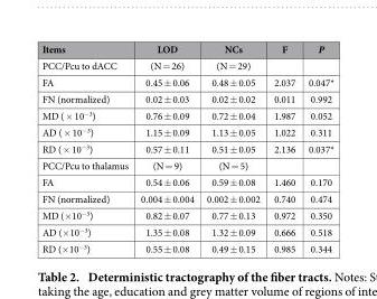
<table><thead><tr><td>Items</td><td>LOD</td><td>NCs</td><td>F</td><td>P</td></tr></thead><tbody><tr><td>PCC/Pcu to dACC</td><td>(N = 26)</td><td>(N = 29)</td><td></td><td></td></tr><tr><td>FA</td><td>0.45 ± 0.06</td><td>0.48 ± 0.05</td><td>2.037</td><td>0.047*</td></tr><tr><td>FN (normalized)</td><td>0.02 ± 0.03</td><td>0.02 ± 0.02</td><td>0.011</td><td>0.992</td></tr><tr><td>MD ( × 10<sup>−3</sup>)</td><td>0.76 ± 0.09</td><td>0.72 ± 0.04</td><td>1.987</td><td>0.052</td></tr><tr><td>AD ( × 10<sup>−3</sup>)</td><td>1.15 ± 0.09</td><td>1.13 ± 0.05</td><td>1.022</td><td>0.311</td></tr><tr><td>RD ( × 10<sup>−3</sup>)</td><td>0.57 ± 0.11</td><td>0.51 ± 0.05</td><td>2.136</td><td>0.037*</td></tr><tr><td>PCC/Pcu to thalamus</td><td>(N = 9)</td><td>(N = 5)</td><td></td><td></td></tr><tr><td>FA</td><td>0.54 ± 0.06</td><td>0.59 ± 0.08</td><td>1.460</td><td>0.170</td></tr><tr><td>FN (normalized)</td><td>0.004 ± 0.004</td><td>0.002 ± 0.002</td><td>0.740</td><td>0.474</td></tr><tr><td>MD (× 10<sup>−3</sup>)</td><td>0.82 ± 0.07</td><td>0.77 ± 0.13</td><td>0.972</td><td>0.350</td></tr><tr><td>AD (× 10<sup>−3</sup>)</td><td>1.35 ± 0.08</td><td>1.32 ± 0.09</td><td>0.666</td><td>0.518</td></tr><tr><td>RD (× 10<sup>−3</sup>)</td><td>0.55 ± 0.08</td><td>0.49 ± 0.15</td><td>0.985</td><td>0.344</td></tr></tbody></table>